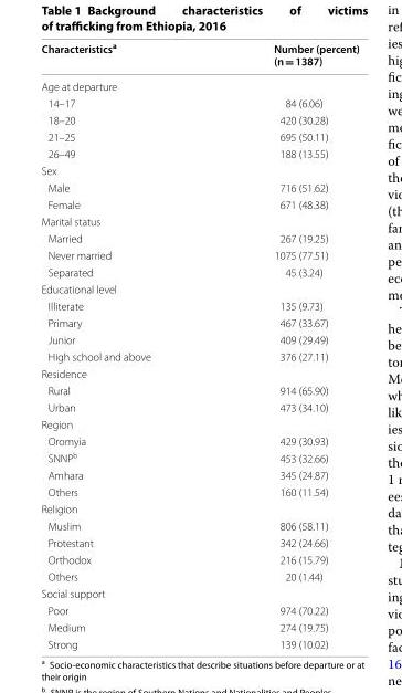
<table><thead><tr><td>Characteristics<sup>a</sup></td><td>Number (percent) (n = 1387)</td></tr></thead><tbody><tr><td colspan="2">Age at departure</td></tr><tr><td>14–17</td><td>84 (6.06)</td></tr><tr><td>18–20</td><td>420 (30.28)</td></tr><tr><td>21–25</td><td>695 (50.11)</td></tr><tr><td>26–49</td><td>188 (13.55)</td></tr><tr><td colspan="2">Sex</td></tr><tr><td>Male</td><td>716 (51.62)</td></tr><tr><td>Female</td><td>671 (48.38)</td></tr><tr><td colspan="2">Marital status</td></tr><tr><td>Married</td><td>267 (19.25)</td></tr><tr><td>Never married</td><td>1075 (77.51)</td></tr><tr><td>Separated</td><td>45 (3.24)</td></tr><tr><td colspan="2">Educational level</td></tr><tr><td>Illiterate</td><td>135 (9.73)</td></tr><tr><td>Primary</td><td>467 (33.67)</td></tr><tr><td>Junior</td><td>409 (29.49)</td></tr><tr><td>High school and above</td><td>376 (27.11)</td></tr><tr><td colspan="2">Residence</td></tr><tr><td>Rural</td><td>914 (65.90)</td></tr><tr><td>Urban</td><td>473 (34.10)</td></tr><tr><td colspan="2">Region</td></tr><tr><td>Oromyia</td><td>429 (30.93)</td></tr><tr><td>SNNP<sup>b</sup></td><td>453 (32.66)</td></tr><tr><td>Amhara</td><td>345 (24.87)</td></tr><tr><td>Others</td><td>160 (11.54)</td></tr><tr><td colspan="2">Religion</td></tr><tr><td>Muslim</td><td>806 (58.11)</td></tr><tr><td>Protestant</td><td>342 (24.66)</td></tr><tr><td>Orthodox</td><td>216 (15.79)</td></tr><tr><td>Others</td><td>20 (1.44)</td></tr><tr><td colspan="2">Social support</td></tr><tr><td>Poor</td><td>974 (70.22)</td></tr><tr><td>Medium</td><td>274 (19.75)</td></tr><tr><td>Strong</td><td>139 (10.02)</td></tr></tbody></table>